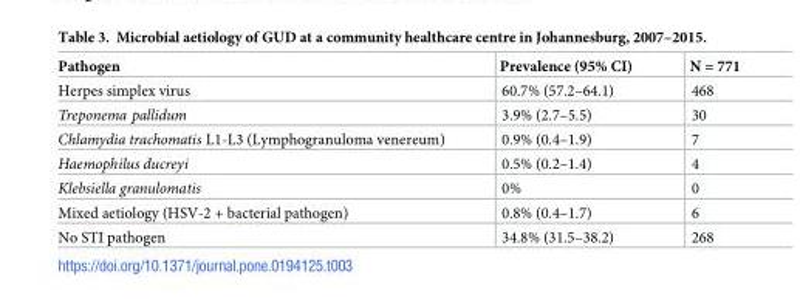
<table><thead><tr><td>Pathogen</td><td>Prevalence (95% CI)</td><td>N = 771</td></tr></thead><tbody><tr><td>Herpes simplex virus</td><td>60.7% (57.2–64.1)</td><td>468</td></tr><tr><td>Treponema pallidum</td><td>3.9% (2.7–5.5)</td><td>30</td></tr><tr><td>Chlamydia trachomatis L1-L3 (Lymphogranuloma venereum)</td><td>0.9% (0.4–1.9)</td><td>7</td></tr><tr><td>Haemophilus ducreyi</td><td>0.5% (0.2–1.4)</td><td>4</td></tr><tr><td>Klebsiella granulomatis</td><td>0%</td><td>0</td></tr><tr><td>Mixed aetiology (HSV-2 + bacterial pathogen)</td><td>0.8% (0.4–1.7)</td><td>6</td></tr><tr><td>No STI pathogen</td><td>34.8% (31.5–38.2)</td><td>268</td></tr></tbody></table>